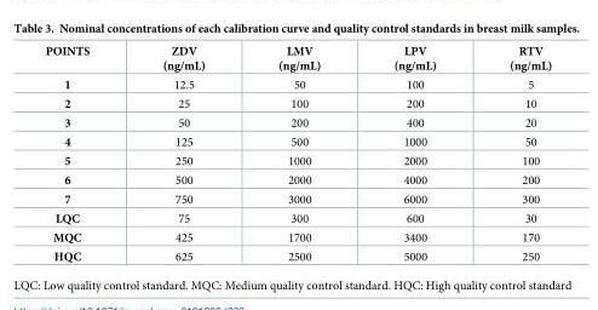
<table><thead><tr><td>POINTS</td><td>ZDV (ng/mL)</td><td>LMV (ng/mL)</td><td>LPV (ng/mL)</td><td>RTV (ng/mL)</td></tr></thead><tbody><tr><td>1</td><td>12.5</td><td>50</td><td>100</td><td>5</td></tr><tr><td>2</td><td>25</td><td>100</td><td>200</td><td>10</td></tr><tr><td>3</td><td>50</td><td>200</td><td>400</td><td>20</td></tr><tr><td>4</td><td>125</td><td>500</td><td>1000</td><td>50</td></tr><tr><td>5</td><td>250</td><td>1000</td><td>2000</td><td>100</td></tr><tr><td>6</td><td>500</td><td>2000</td><td>4000</td><td>200</td></tr><tr><td>7</td><td>750</td><td>3000</td><td>6000</td><td>300</td></tr><tr><td>LQC</td><td>75</td><td>300</td><td>600</td><td>30</td></tr><tr><td>MQC</td><td>425</td><td>1700</td><td>3400</td><td>170</td></tr><tr><td>HQC</td><td>625</td><td>2500</td><td>5000</td><td>250</td></tr></tbody></table>